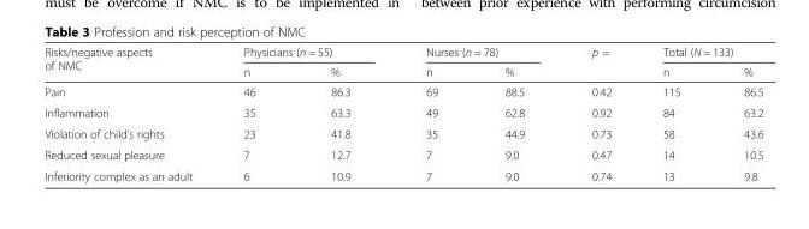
<table><thead><tr><td rowspan="2">Risks/negative aspects of NMC</td><td colspan="2">Physicians (n = 55)</td><td colspan="2">Nurses (n = 78)</td><td rowspan="2">p =</td><td colspan="2">Total (N = 133)</td></tr><tr><td>n</td><td>%</td><td>n</td><td>%</td><td>n</td><td>%</td></tr></thead><tbody><tr><td>Pain</td><td>46</td><td>86.3</td><td>69</td><td>88.5</td><td>0.42</td><td>115</td><td>86.5</td></tr><tr><td>Inflammation</td><td>35</td><td>63.3</td><td>49</td><td>62.8</td><td>0.92</td><td>84</td><td>63.2</td></tr><tr><td>Violation of child’s rights</td><td>23</td><td>41.8</td><td>35</td><td>44.9</td><td>0.73</td><td>58</td><td>43.6</td></tr><tr><td>Reduced sexual pleasure</td><td>7</td><td>12.7</td><td>7</td><td>9.0</td><td>0.47</td><td>14</td><td>10.5</td></tr><tr><td>Inferiority complex as an adult</td><td>6</td><td>10.9</td><td>7</td><td>9.0</td><td>0.74</td><td>13</td><td>9.8</td></tr></tbody></table>